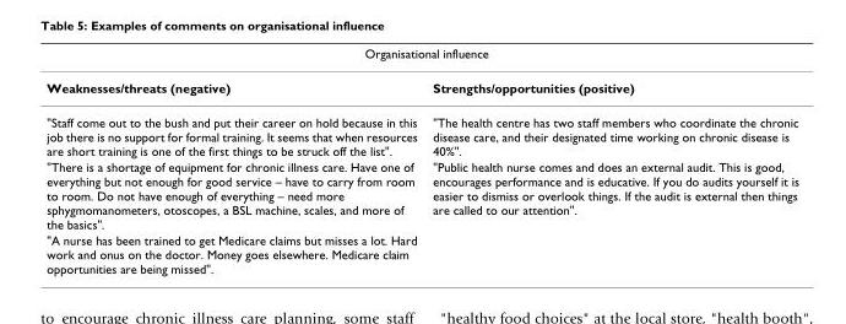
<table><thead><tr><td colspan="2">Organisational influence</td></tr><tr><td>Weaknesses/threats (negative)</td><td>Strengths/opportunities (positive)</td></tr></thead><tbody><tr><td>&quot;Staff come out to the bush and put their career on hold because in this job there is no support for formal training. It seems that when resources are short training is one of the first things to be struck off the list&quot;.</td><td>&quot;The health centre has two staff members who coordinate the chronic disease care, and their designated time working on chronic disease is 40%&quot;.</td></tr><tr><td>&quot;There is a shortage of equipment for chronic illness care. Have one of everything but not enough for good service – have to carry from room to room. Do not have enough of everything – need more sphygmomanometers, otoscopes, a BSL machine, scales, and more of the basics&quot;.</td><td>&quot;Public health nurse comes and does an external audit. This is good, encourages performance and is educative. If you do audits yourself it is easier to dismiss or overlook things. If the audit is external then things are called to our attention&quot;.</td></tr><tr><td>&quot;A nurse has been trained to get Medicare claims but misses a lot. Hard work and onus on the doctor. Money goes elsewhere. Medicare claim opportunities are being missed&quot;.</td><td></td></tr></tbody></table>